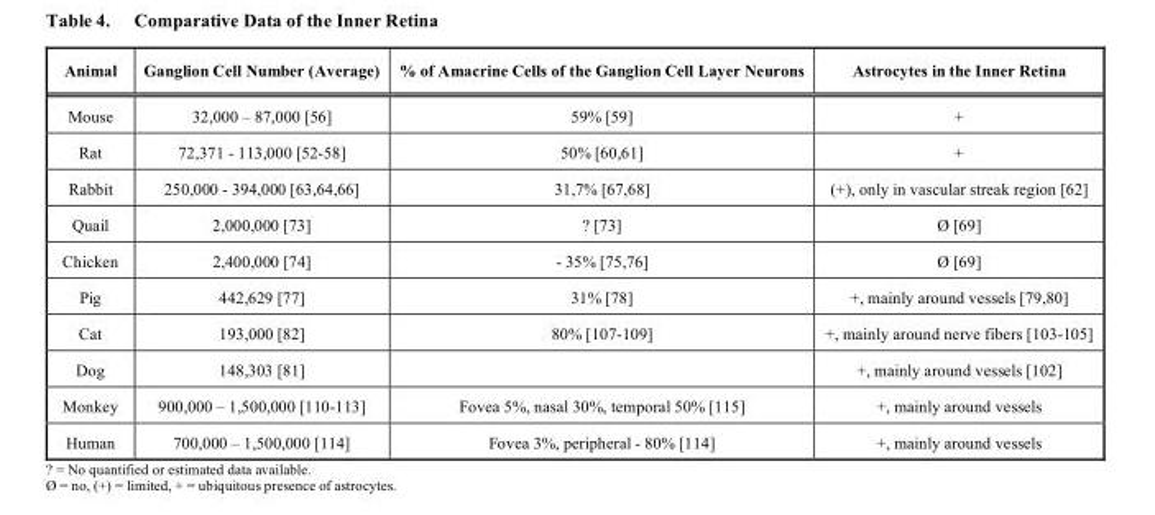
<table><thead><tr><td>Animal</td><td>Ganglion Cell Number (Average)</td><td>% of Amacrine Cells of the Ganglion Cell Layer Neurons</td><td>Astrocytes in the Inner Retina</td></tr></thead><tbody><tr><td>Mouse</td><td>32,000 – 87,000 [56]</td><td>59% [59]</td><td>+</td></tr><tr><td>Rat</td><td>72,371 - 113,000 [52-58]</td><td>50% [60,61]</td><td>+</td></tr><tr><td>Rabbit</td><td>250,000 - 394,000 [63,64,66]</td><td>31,7% [67,68]</td><td>(+), only in vascular streak region [62]</td></tr><tr><td>Quail</td><td>2,000,000 [73]</td><td>? [73]</td><td>Ø [69]</td></tr><tr><td>Chicken</td><td>2,400,000 [74]</td><td>- 35% [75,76]</td><td>Ø [69]</td></tr><tr><td>Pig</td><td>442,629 [77]</td><td>31% [78]</td><td>+, mainly around vessels [79,80]</td></tr><tr><td>Cat</td><td>193,000 [82]</td><td>80% [107-109]</td><td>+, mainly around nerve fibers [103-105]</td></tr><tr><td>Dog</td><td>148,303 [81]</td><td></td><td>+, mainly around vessels [102]</td></tr><tr><td>Monkey</td><td>900,000 – 1,500,000 [110-113]</td><td>Fovea 5%, nasal 30%, temporal 50% [115]</td><td>+, mainly around vessels</td></tr><tr><td>Human</td><td>700,000 – 1,500,000 [114]</td><td>Fovea 3%, peripheral - 80% [114]</td><td>+, mainly around vessels</td></tr></tbody></table>